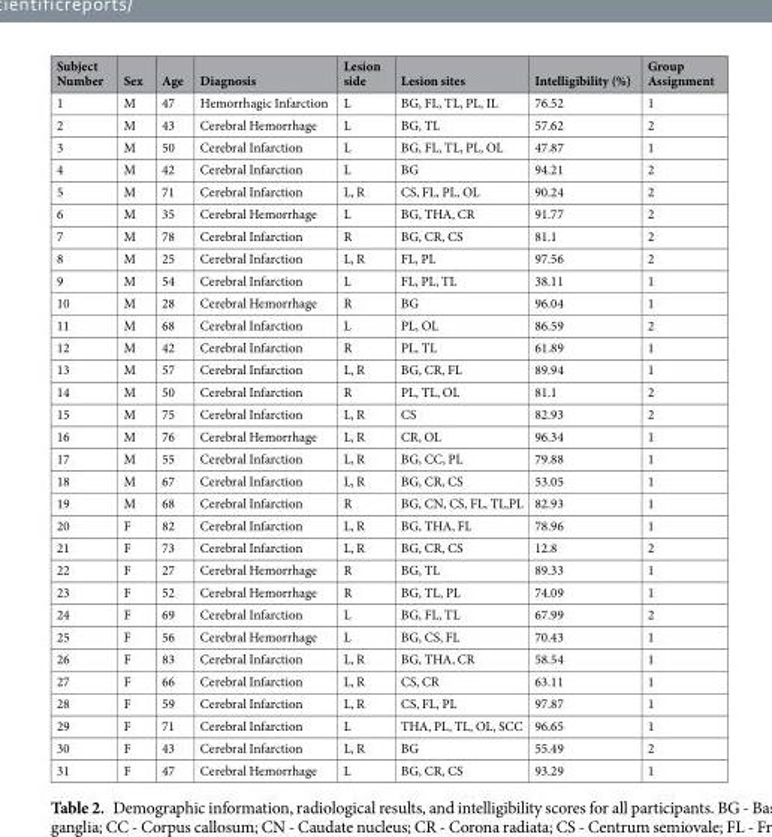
<table><thead><tr><td>Subject Number</td><td>Sex</td><td>Age</td><td>Diagnosis</td><td>Lesion side</td><td>Lesion sites</td><td>Intelligibility (%)</td><td>Group Assignment</td></tr></thead><tbody><tr><td>1</td><td>M</td><td>47</td><td>Hemorrhagic Infarction</td><td>L</td><td>BG, FL, TL, PL, IL</td><td>76.52</td><td>1</td></tr><tr><td>2</td><td>M</td><td>43</td><td>Cerebral Hemorrhage</td><td>L</td><td>BG, TL</td><td>57.62</td><td>2</td></tr><tr><td>3</td><td>M</td><td>50</td><td>Cerebral Infarction</td><td>L</td><td>BG, FL, TL, PL, OL</td><td>47.87</td><td>1</td></tr><tr><td>4</td><td>M</td><td>42</td><td>Cerebral Infarction</td><td>L</td><td>BG</td><td>94.21</td><td>2</td></tr><tr><td>5</td><td>M</td><td>71</td><td>Cerebral Infarction</td><td>L, R</td><td>CS, FL, PL, OL</td><td>90.24</td><td>2</td></tr><tr><td>6</td><td>M</td><td>35</td><td>Cerebral Hemorrhage</td><td>L</td><td>BG, THA, CR</td><td>91.77</td><td>2</td></tr><tr><td>7</td><td>M</td><td>78</td><td>Cerebral Infarction</td><td>R</td><td>BG, CR, CS</td><td>81.1</td><td>2</td></tr><tr><td>8</td><td>M</td><td>25</td><td>Cerebral Infarction</td><td>L, R</td><td>FL, PL</td><td>97.56</td><td>2</td></tr><tr><td>9</td><td>M</td><td>54</td><td>Cerebral Infarction</td><td>L</td><td>FL, PL, TL</td><td>38.11</td><td>1</td></tr><tr><td>10</td><td>M</td><td>28</td><td>Cerebral Hemorrhage</td><td>R</td><td>BG</td><td>96.04</td><td>1</td></tr><tr><td>11</td><td>M</td><td>68</td><td>Cerebral Infarction</td><td>L</td><td>PL, OL</td><td>86.59</td><td>2</td></tr><tr><td>12</td><td>M</td><td>42</td><td>Cerebral Infarction</td><td>R</td><td>PL, TL</td><td>61.89</td><td>1</td></tr><tr><td>13</td><td>M</td><td>57</td><td>Cerebral Infarction</td><td>L, R</td><td>BG, CR, FL</td><td>89.94</td><td>1</td></tr><tr><td>14</td><td>M</td><td>50</td><td>Cerebral Infarction</td><td>R</td><td>PL, TL, OL</td><td>81.1</td><td>2</td></tr><tr><td>15</td><td>M</td><td>75</td><td>Cerebral Infarction</td><td>L, R</td><td>CS</td><td>82.93</td><td>2</td></tr><tr><td>16</td><td>M</td><td>76</td><td>Cerebral Hemorrhage</td><td>L, R</td><td>CR, OL</td><td>96.34</td><td>1</td></tr><tr><td>17</td><td>M</td><td>55</td><td>Cerebral Infarction</td><td>L, R</td><td>BG, CC, PL</td><td>79.88</td><td>1</td></tr><tr><td>18</td><td>M</td><td>67</td><td>Cerebral Infarction</td><td>L, R</td><td>BG, CR, CS</td><td>53.05</td><td>1</td></tr><tr><td>19</td><td>M</td><td>68</td><td>Cerebral Infarction</td><td>R</td><td>BG, CN, CS, FL, TL,PL</td><td>82.93</td><td>1</td></tr><tr><td>20</td><td>F</td><td>82</td><td>Cerebral Infarction</td><td>L, R</td><td>BG, THA, FL</td><td>78.96</td><td>1</td></tr><tr><td>21</td><td>F</td><td>73</td><td>Cerebral Infarction</td><td>L, R</td><td>BG, CR, CS</td><td>12.8</td><td>2</td></tr><tr><td>22</td><td>F</td><td>27</td><td>Cerebral Hemorrhage</td><td>R</td><td>BG, TL</td><td>89.33</td><td>1</td></tr><tr><td>23</td><td>F</td><td>52</td><td>Cerebral Hemorrhage</td><td>R</td><td>BG, TL, PL</td><td>74.09</td><td>1</td></tr><tr><td>24</td><td>F</td><td>69</td><td>Cerebral Infarction</td><td>L</td><td>BG, FL, TL</td><td>67.99</td><td>2</td></tr><tr><td>25</td><td>F</td><td>56</td><td>Cerebral Hemorrhage</td><td>L</td><td>BG, CS, FL</td><td>70.43</td><td>1</td></tr><tr><td>26</td><td>F</td><td>83</td><td>Cerebral Infarction</td><td>L, R</td><td>BG, THA, CR</td><td>58.54</td><td>1</td></tr><tr><td>27</td><td>F</td><td>66</td><td>Cerebral Infarction</td><td>L, R</td><td>CS, CR</td><td>63.11</td><td>1</td></tr><tr><td>28</td><td>F</td><td>59</td><td>Cerebral Infarction</td><td>L, R</td><td>CS, FL, PL</td><td>97.87</td><td>1</td></tr><tr><td>29</td><td>F</td><td>71</td><td>Cerebral Infarction</td><td>L</td><td>THA, PL, TL, OL, SCC</td><td>96.65</td><td>1</td></tr><tr><td>30</td><td>F</td><td>43</td><td>Cerebral Infarction</td><td>L, R</td><td>BG</td><td>55.49</td><td>2</td></tr><tr><td>31</td><td>F</td><td>47</td><td>Cerebral Hemorrhage</td><td>L</td><td>BG, CR, CS</td><td>93.29</td><td>1</td></tr></tbody></table>